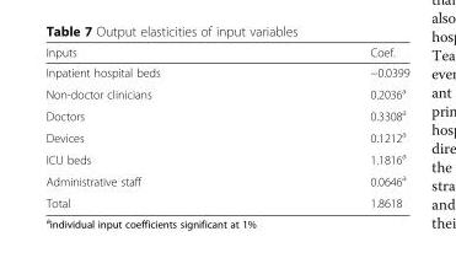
<table><thead><tr><td>Inputs</td><td>Coef.</td></tr></thead><tbody><tr><td>Inpatient hospital beds</td><td>−0.0399</td></tr><tr><td>Non-doctor clinicians</td><td>0.2036<sup>a</sup></td></tr><tr><td>Doctors</td><td>0.3308<sup>a</sup></td></tr><tr><td>Devices</td><td>0.1212<sup>a</sup></td></tr><tr><td>ICU beds</td><td>1.1816<sup>a</sup></td></tr><tr><td>Administrative staff</td><td>0.0646<sup>a</sup></td></tr><tr><td>Total</td><td>1.8618</td></tr></tbody></table>